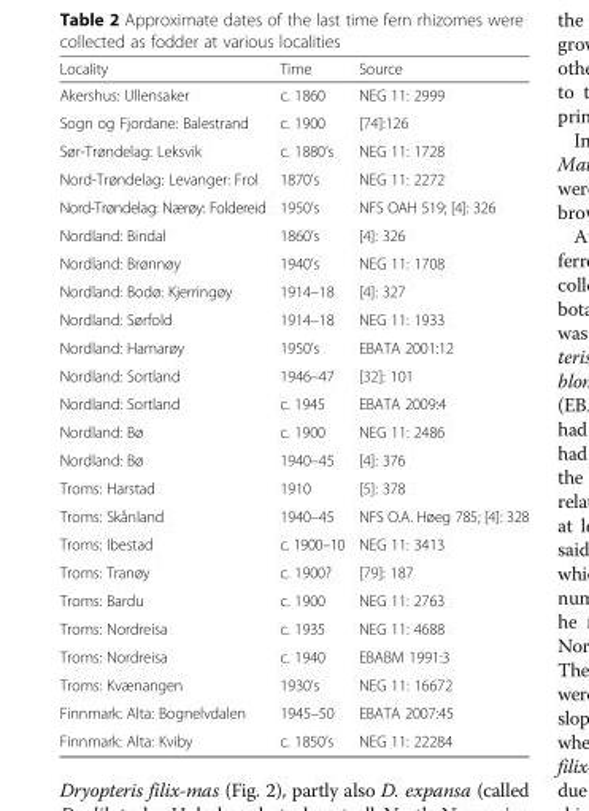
<table><thead><tr><td>Locality</td><td>Time</td><td>Source</td></tr></thead><tbody><tr><td>Akershus: Ullensaker</td><td>c. 1860</td><td>NEG 11: 2999</td></tr><tr><td>Sogn og Fjordane: Balestrand</td><td>c. 1900</td><td>[74]:126</td></tr><tr><td>Sør-Trøndelag: Leksvik</td><td>c. 1880’s</td><td>NEG 11: 1728</td></tr><tr><td>Nord-Trøndelag: Levanger: Frol</td><td>1870’s</td><td>NEG 11: 2272</td></tr><tr><td>Nord-Trøndelag: Nærøy: Foldereid</td><td>1950’s</td><td>NFS OAH 519; [4]: 326</td></tr><tr><td>Nordland: Bindal</td><td>1860’s</td><td>[4]: 326</td></tr><tr><td>Nordland: Brønnøy</td><td>1940’s</td><td>NEG 11: 1708</td></tr><tr><td>Nordland: Bodø: Kjerringøy</td><td>1914–18</td><td>[4]: 327</td></tr><tr><td>Nordland: Sørfold</td><td>1914–18</td><td>NEG 11: 1933</td></tr><tr><td>Nordland: Hamarøy</td><td>1950’s</td><td>EBATA 2001:12</td></tr><tr><td>Nordland: Sortland</td><td>1946–47</td><td>[32]: 101</td></tr><tr><td>Nordland: Sortland</td><td>c. 1945</td><td>EBATA 2009:4</td></tr><tr><td>Nordland: Bø</td><td>c. 1900</td><td>NEG 11: 2486</td></tr><tr><td>Nordland: Bø</td><td>1940–45</td><td>[4]: 376</td></tr><tr><td>Troms: Harstad</td><td>1910</td><td>[5]: 378</td></tr><tr><td>Troms: Skånland</td><td>1940–45</td><td>NFS O.A. Høeg 785; [4]: 328</td></tr><tr><td>Troms: Ibestad</td><td>c. 1900–10</td><td>NEG 11: 3413</td></tr><tr><td>Troms: Tranøy</td><td>c. 1900?</td><td>[79]: 187</td></tr><tr><td>Troms: Bardu</td><td>c. 1900</td><td>NEG 11: 2763</td></tr><tr><td>Troms: Nordreisa</td><td>c. 1935</td><td>NEG 11: 4688</td></tr><tr><td>Troms: Nordreisa</td><td>c. 1940</td><td>EBABM 1991:3</td></tr><tr><td>Troms: Kvænangen</td><td>1930’s</td><td>NEG 11: 16672</td></tr><tr><td>Finnmark: Alta: Bognelvdalen</td><td>1945–50</td><td>EBATA 2007:45</td></tr><tr><td>Finnmark: Alta: Kviby</td><td>c. 1850’s</td><td>NEG 11: 22284</td></tr></tbody></table>